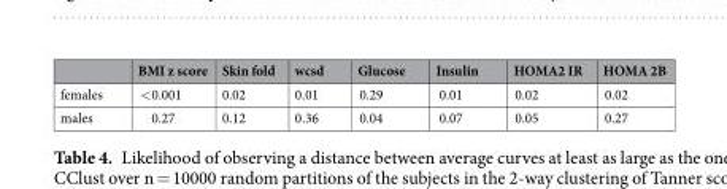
<table><thead><tr><td></td><td>BMI z score</td><td>Skin fold</td><td>wcsd</td><td>Glucose</td><td>Insulin</td><td>HOMA2 IR</td><td>HOMA 2B</td></tr></thead><tbody><tr><td>females</td><td>&lt;0.001</td><td>0.02</td><td>0.01</td><td>0.29</td><td>0.01</td><td>0.02</td><td>0.02</td></tr><tr><td>males</td><td>0.27</td><td>0.12</td><td>0.36</td><td>0.04</td><td>0.07</td><td>0.05</td><td>0.27</td></tr></tbody></table>